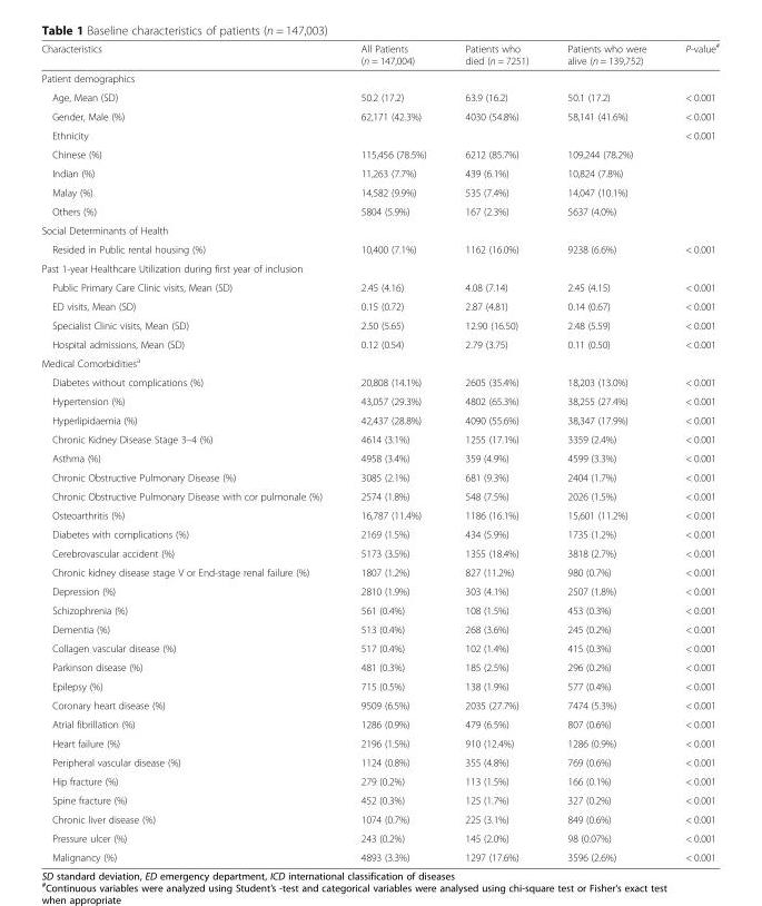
<table><thead><tr><td>Characteristics</td><td>All Patients (n = 147,004)</td><td>Patients who died (n = 7251)</td><td>Patients who were alive (n = 139,752)</td><td>P-value<sup>#</sup></td></tr></thead><tbody><tr><td colspan="5">Patient demographics</td></tr><tr><td>Age, Mean (SD)</td><td>50.2 (17.2)</td><td>63.9 (16.2)</td><td>50.1 (17.2)</td><td>&lt; 0.001</td></tr><tr><td>Gender, Male (%)</td><td>62,171 (42.3%)</td><td>4030 (54.8%)</td><td>58,141 (41.6%)</td><td>&lt; 0.001</td></tr><tr><td>Ethnicity</td><td></td><td></td><td></td><td>&lt; 0.001</td></tr><tr><td>Chinese (%)</td><td>115,456 (78.5%)</td><td>6212 (85.7%)</td><td>109,244 (78.2%)</td><td></td></tr><tr><td>Indian (%)</td><td>11,263 (7.7%)</td><td>439 (6.1%)</td><td>10,824 (7.8%)</td><td></td></tr><tr><td>Malay (%)</td><td>14,582 (9.9%)</td><td>535 (7.4%)</td><td>14,047 (10.1%)</td><td></td></tr><tr><td>Others (%)</td><td>5804 (5.9%)</td><td>167 (2.3%)</td><td>5637 (4.0%)</td><td></td></tr><tr><td colspan="5">Social Determinants of Health</td></tr><tr><td>Resided in Public rental housing (%)</td><td>10,400 (7.1%)</td><td>1162 (16.0%)</td><td>9238 (6.6%)</td><td>&lt; 0.001</td></tr><tr><td colspan="5">Past 1-year Healthcare Utilization during first year of inclusion</td></tr><tr><td>Public Primary Care Clinic visits, Mean (SD)</td><td>2.45 (4.16)</td><td>4.08 (7.14)</td><td>2.45 (4.15)</td><td>&lt; 0.001</td></tr><tr><td>ED visits, Mean (SD)</td><td>0.15 (0.72)</td><td>2.87 (4.81)</td><td>0.14 (0.67)</td><td>&lt; 0.001</td></tr><tr><td>Specialist Clinic visits, Mean (SD)</td><td>2.50 (5.65)</td><td>12.90 (16.50)</td><td>2.48 (5.59)</td><td>&lt; 0.001</td></tr><tr><td>Hospital admissions, Mean (SD)</td><td>0.12 (0.54)</td><td>2.79 (3.75)</td><td>0.11 (0.50)</td><td>&lt; 0.001</td></tr><tr><td colspan="5">Medical Comorbidities<sup>a</sup></td></tr><tr><td>Diabetes without complications (%)</td><td>20,808 (14.1%)</td><td>2605 (35.4%)</td><td>18,203 (13.0%)</td><td>&lt; 0.001</td></tr><tr><td>Hypertension (%)</td><td>43,057 (29.3%)</td><td>4802 (65.3%)</td><td>38,255 (27.4%)</td><td>&lt; 0.001</td></tr><tr><td>Hyperlipidaemia (%)</td><td>42,437 (28.8%)</td><td>4090 (55.6%)</td><td>38,347 (17.9%)</td><td>&lt; 0.001</td></tr><tr><td>Chronic Kidney Disease Stage 3–4 (%)</td><td>4614 (3.1%)</td><td>1255 (17.1%)</td><td>3359 (2.4%)</td><td>&lt; 0.001</td></tr><tr><td>Asthma (%)</td><td>4958 (3.4%)</td><td>359 (4.9%)</td><td>4599 (3.3%)</td><td>&lt; 0.001</td></tr><tr><td>Chronic Obstructive Pulmonary Disease (%)</td><td>3085 (2.1%)</td><td>681 (9.3%)</td><td>2404 (1.7%)</td><td>&lt; 0.001</td></tr><tr><td>Chronic Obstructive Pulmonary Disease with cor pulmonale (%)</td><td>2574 (1.8%)</td><td>548 (7.5%)</td><td>2026 (1.5%)</td><td>&lt; 0.001</td></tr><tr><td>Osteoarthritis (%)</td><td>16,787 (11.4%)</td><td>1186 (16.1%)</td><td>15,601 (11.2%)</td><td>&lt; 0.001</td></tr><tr><td>Diabetes with complications (%)</td><td>2169 (1.5%)</td><td>434 (5.9%)</td><td>1735 (1.2%)</td><td>&lt; 0.001</td></tr><tr><td>Cerebrovascular accident (%)</td><td>5173 (3.5%)</td><td>1355 (18.4%)</td><td>3818 (2.7%)</td><td>&lt; 0.001</td></tr><tr><td>Chronic kidney disease stage V or End-stage renal failure (%)</td><td>1807 (1.2%)</td><td>827 (11.2%)</td><td>980 (0.7%)</td><td>&lt; 0.001</td></tr><tr><td>Depression (%)</td><td>2810 (1.9%)</td><td>303 (4.1%)</td><td>2507 (1.8%)</td><td>&lt; 0.001</td></tr><tr><td>Schizophrenia (%)</td><td>561 (0.4%)</td><td>108 (1.5%)</td><td>453 (0.3%)</td><td>&lt; 0.001</td></tr><tr><td>Dementia (%)</td><td>513 (0.4%)</td><td>268 (3.6%)</td><td>245 (0.2%)</td><td>&lt; 0.001</td></tr><tr><td>Collagen vascular disease (%)</td><td>517 (0.4%)</td><td>102 (1.4%)</td><td>415 (0.3%)</td><td>&lt; 0.001</td></tr><tr><td>Parkinson disease (%)</td><td>481 (0.3%)</td><td>185 (2.5%)</td><td>296 (0.2%)</td><td>&lt; 0.001</td></tr><tr><td>Epilepsy (%)</td><td>715 (0.5%)</td><td>138 (1.9%)</td><td>577 (0.4%)</td><td>&lt; 0.001</td></tr><tr><td>Coronary heart disease (%)</td><td>9509 (6.5%)</td><td>2035 (27.7%)</td><td>7474 (5.3%)</td><td>&lt; 0.001</td></tr><tr><td>Atrial fibrillation (%)</td><td>1286 (0.9%)</td><td>479 (6.5%)</td><td>807 (0.6%)</td><td>&lt; 0.001</td></tr><tr><td>Heart failure (%)</td><td>2196 (1.5%)</td><td>910 (12.4%)</td><td>1286 (0.9%)</td><td>&lt; 0.001</td></tr><tr><td>Peripheral vascular disease (%)</td><td>1124 (0.8%)</td><td>355 (4.8%)</td><td>769 (0.6%)</td><td>&lt; 0.001</td></tr><tr><td>Hip fracture (%)</td><td>279 (0.2%)</td><td>113 (1.5%)</td><td>166 (0.1%)</td><td>&lt; 0.001</td></tr><tr><td>Spine fracture (%)</td><td>452 (0.3%)</td><td>125 (1.7%)</td><td>327 (0.2%)</td><td>&lt; 0.001</td></tr><tr><td>Chronic liver disease (%)</td><td>1074 (0.7%)</td><td>225 (3.1%)</td><td>849 (0.6%)</td><td>&lt; 0.001</td></tr><tr><td>Pressure ulcer (%)</td><td>243 (0.2%)</td><td>145 (2.0%)</td><td>98 (0.07%)</td><td>&lt; 0.001</td></tr><tr><td>Malignancy (%)</td><td>4893 (3.3%)</td><td>1297 (17.6%)</td><td>3596 (2.6%)</td><td>&lt; 0.001</td></tr></tbody></table>